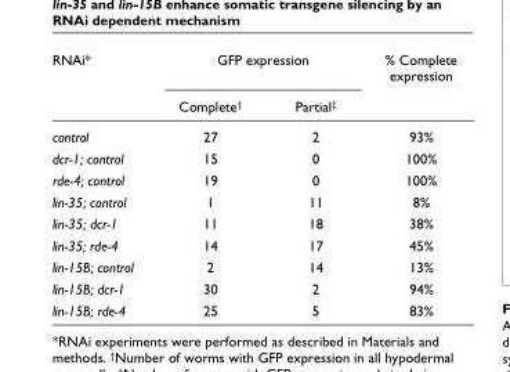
<table><thead><tr><td rowspan="2">RNAi*</td><td colspan="2">GFP expression</td><td rowspan="2">% Complete expression</td></tr><tr><td>Complete†</td><td>Partial‡</td></tr></thead><tbody><tr><td>control</td><td>27</td><td>2</td><td>93%</td></tr><tr><td>dcr-1; control</td><td>15</td><td>0</td><td>100%</td></tr><tr><td>rde-4; control</td><td>19</td><td>0</td><td>100%</td></tr><tr><td>lin-35; control</td><td>1</td><td>11</td><td>8%</td></tr><tr><td>lin-35; dcr-1</td><td>11</td><td>18</td><td>38%</td></tr><tr><td>lin-35; rde-4</td><td>14</td><td>17</td><td>45%</td></tr><tr><td>lin-15B; control</td><td>2</td><td>14</td><td>13%</td></tr><tr><td>lin-15B; dcr-1</td><td>30</td><td>2</td><td>94%</td></tr><tr><td>lin-15B; rde-4</td><td>25</td><td>5</td><td>83%</td></tr></tbody></table>